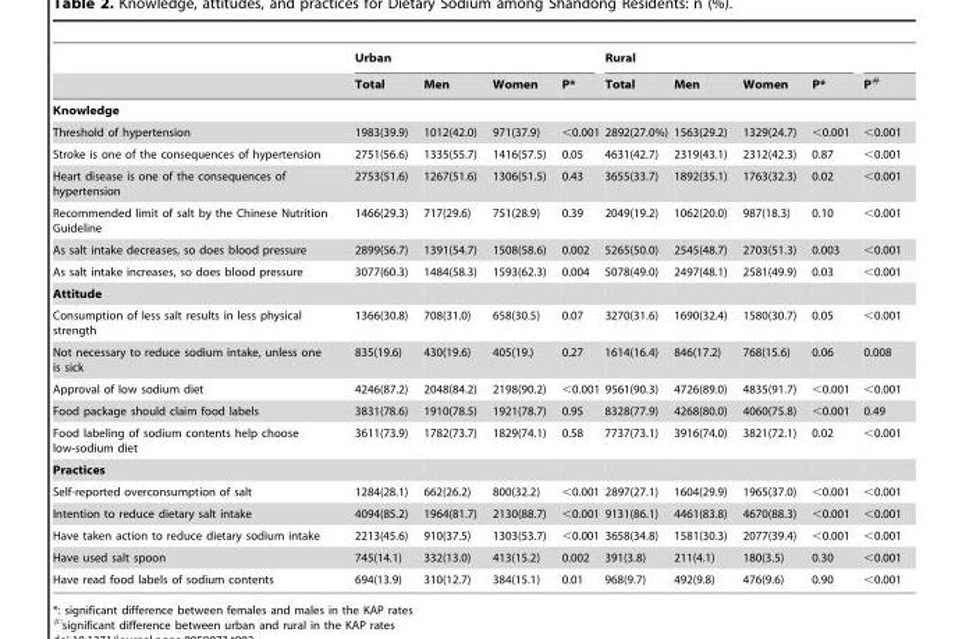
<table><thead><tr><td rowspan="2"></td><td colspan="4">Urban</td><td colspan="4">Rural</td><td rowspan="2">P<sup>#</sup></td></tr><tr><td>Total</td><td>Men</td><td>Women</td><td>P*</td><td>Total</td><td>Men</td><td>Women</td><td>P*</td></tr></thead><tbody><tr><td colspan="10">Knowledge</td></tr><tr><td>Threshold of hypertension</td><td>1983(39.9)</td><td>1012(42.0)</td><td>971(37.9)</td><td>&lt;0.001</td><td>2892(27.0%)</td><td>1563(29.2)</td><td>1329(24.7)</td><td>&lt;0.001</td><td>&lt;0.001</td></tr><tr><td>Stroke is one of the consequences of hypertension</td><td>2751(56.6)</td><td>1335(55.7)</td><td>1416(57.5)</td><td>0.05</td><td>4631(42.7)</td><td>2319(43.1)</td><td>2312(42.3)</td><td>0.87</td><td>&lt;0.001</td></tr><tr><td>Heart disease is one of the consequences of hypertension</td><td>2753(51.6)</td><td>1267(51.6)</td><td>1306(51.5)</td><td>0.43</td><td>3655(33.7)</td><td>1892(35.1)</td><td>1763(32.3)</td><td>0.02</td><td>&lt;0.001</td></tr><tr><td>Recommended limit of salt by the Chinese Nutrition Guideline</td><td>1466(29.3)</td><td>717(29.6)</td><td>751(28.9)</td><td>0.39</td><td>2049(19.2)</td><td>1062(20.0)</td><td>987(18.3)</td><td>0.10</td><td>&lt;0.001</td></tr><tr><td>As salt intake decreases, so does blood pressure</td><td>2899(56.7)</td><td>1391(54.7)</td><td>1508(58.6)</td><td>0.002</td><td>5265(50.0)</td><td>2545(48.7)</td><td>2703(51.3)</td><td>0.003</td><td>&lt;0.001</td></tr><tr><td>As salt intake increases, so does blood pressure</td><td>3077(60.3)</td><td>1484(58.3)</td><td>1593(62.3)</td><td>0.004</td><td>5078(49.0)</td><td>2497(48.1)</td><td>2581(49.9)</td><td>0.03</td><td>&lt;0.001</td></tr><tr><td colspan="10">Attitude</td></tr><tr><td>Consumption of less salt results in less physical strength</td><td>1366(30.8)</td><td>708(31.0)</td><td>658(30.5)</td><td>0.07</td><td>3270(31.6)</td><td>1690(32.4)</td><td>1580(30.7)</td><td>0.05</td><td>&lt;0.001</td></tr><tr><td>Not necessary to reduce sodium intake, unless one is sick</td><td>835(19.6)</td><td>430(19.6)</td><td>405(19.)</td><td>0.27</td><td>1614(16.4)</td><td>846(17.2)</td><td>768(15.6)</td><td>0.06</td><td>0.008</td></tr><tr><td>Approval of low sodium diet</td><td>4246(87.2)</td><td>2048(84.2)</td><td>2198(90.2)</td><td>&lt;0.001</td><td>9561(90.3)</td><td>4726(89.0)</td><td>4835(91.7)</td><td>&lt;0.001</td><td>&lt;0.001</td></tr><tr><td>Food package should claim food labels</td><td>3831(78.6)</td><td>1910(78.5)</td><td>1921(78.7)</td><td>0.95</td><td>8328(77.9)</td><td>4268(80.0)</td><td>4060(75.8)</td><td>&lt;0.001</td><td>0.49</td></tr><tr><td>Food labeling of sodium contents help choose low-sodium diet</td><td>3611(73.9)</td><td>1782(73.7)</td><td>1829(74.1)</td><td>0.58</td><td>7737(73.1)</td><td>3916(74.0)</td><td>3821(72.1)</td><td>0.02</td><td>&lt;0.001</td></tr><tr><td colspan="10">Practices</td></tr><tr><td>Self-reported overconsumption of salt</td><td>1284(28.1)</td><td>662(26.2)</td><td>800(32.2)</td><td>&lt;0.001</td><td>2897(27.1)</td><td>1604(29.9)</td><td>1965(37.0)</td><td>&lt;0.001</td><td>&lt;0.001</td></tr><tr><td>Intention to reduce dietary salt intake</td><td>4094(85.2)</td><td>1964(81.7)</td><td>2130(88.7)</td><td>&lt;0.001</td><td>9131(86.1)</td><td>4461(83.8)</td><td>4670(88.3)</td><td>&lt;0.001</td><td>&lt;0.001</td></tr><tr><td>Have taken action to reduce dietary sodium intake</td><td>2213(45.6)</td><td>910(37.5)</td><td>1303(53.7)</td><td>&lt;0.001</td><td>3658(34.8)</td><td>1581(30.3)</td><td>2077(39.4)</td><td>&lt;0.001</td><td>&lt;0.001</td></tr><tr><td>Have used salt spoon</td><td>745(14.1)</td><td>332(13.0)</td><td>413(15.2)</td><td>0.002</td><td>391(3.8)</td><td>211(4.1)</td><td>180(3.5)</td><td>0.30</td><td>&lt;0.001</td></tr><tr><td>Have read food labels of sodium contents</td><td>694(13.9)</td><td>310(12.7)</td><td>384(15.1)</td><td>0.01</td><td>968(9.7)</td><td>492(9.8)</td><td>476(9.6)</td><td>0.90</td><td>&lt;0.001</td></tr></tbody></table>